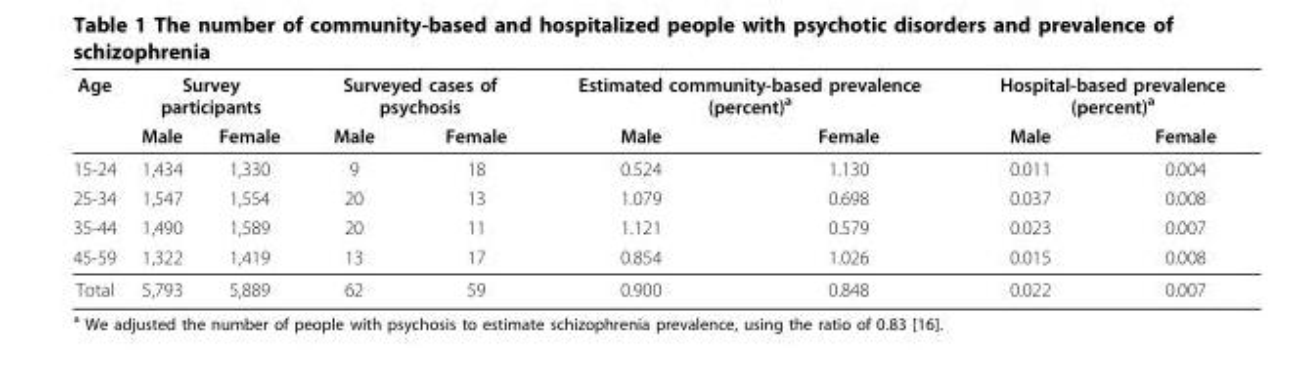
<table><thead><tr><td rowspan="2">Age</td><td colspan="2">Survey participants</td><td colspan="2">Surveyed cases of psychosis</td><td colspan="2">Estimated community-based prevalence (percent)<sup>a</sup></td><td colspan="2">Hospital-based prevalence (percent)<sup>a</sup></td></tr><tr><td>Male</td><td>Female</td><td>Male</td><td>Female</td><td>Male</td><td>Female</td><td>Male</td><td>Female</td></tr></thead><tbody><tr><td>15-24</td><td>1,434</td><td>1,330</td><td>9</td><td>18</td><td>0.524</td><td>1.130</td><td>0.011</td><td>0.004</td></tr><tr><td>25-34</td><td>1,547</td><td>1,554</td><td>20</td><td>13</td><td>1.079</td><td>0.698</td><td>0.037</td><td>0.008</td></tr><tr><td>35-44</td><td>1,490</td><td>1,589</td><td>20</td><td>11</td><td>1.121</td><td>0.579</td><td>0.023</td><td>0.007</td></tr><tr><td>45-59</td><td>1,322</td><td>1,419</td><td>13</td><td>17</td><td>0.854</td><td>1.026</td><td>0.015</td><td>0.008</td></tr><tr><td>Total</td><td>5,793</td><td>5,889</td><td>62</td><td>59</td><td>0.900</td><td>0.848</td><td>0.022</td><td>0.007</td></tr></tbody></table>